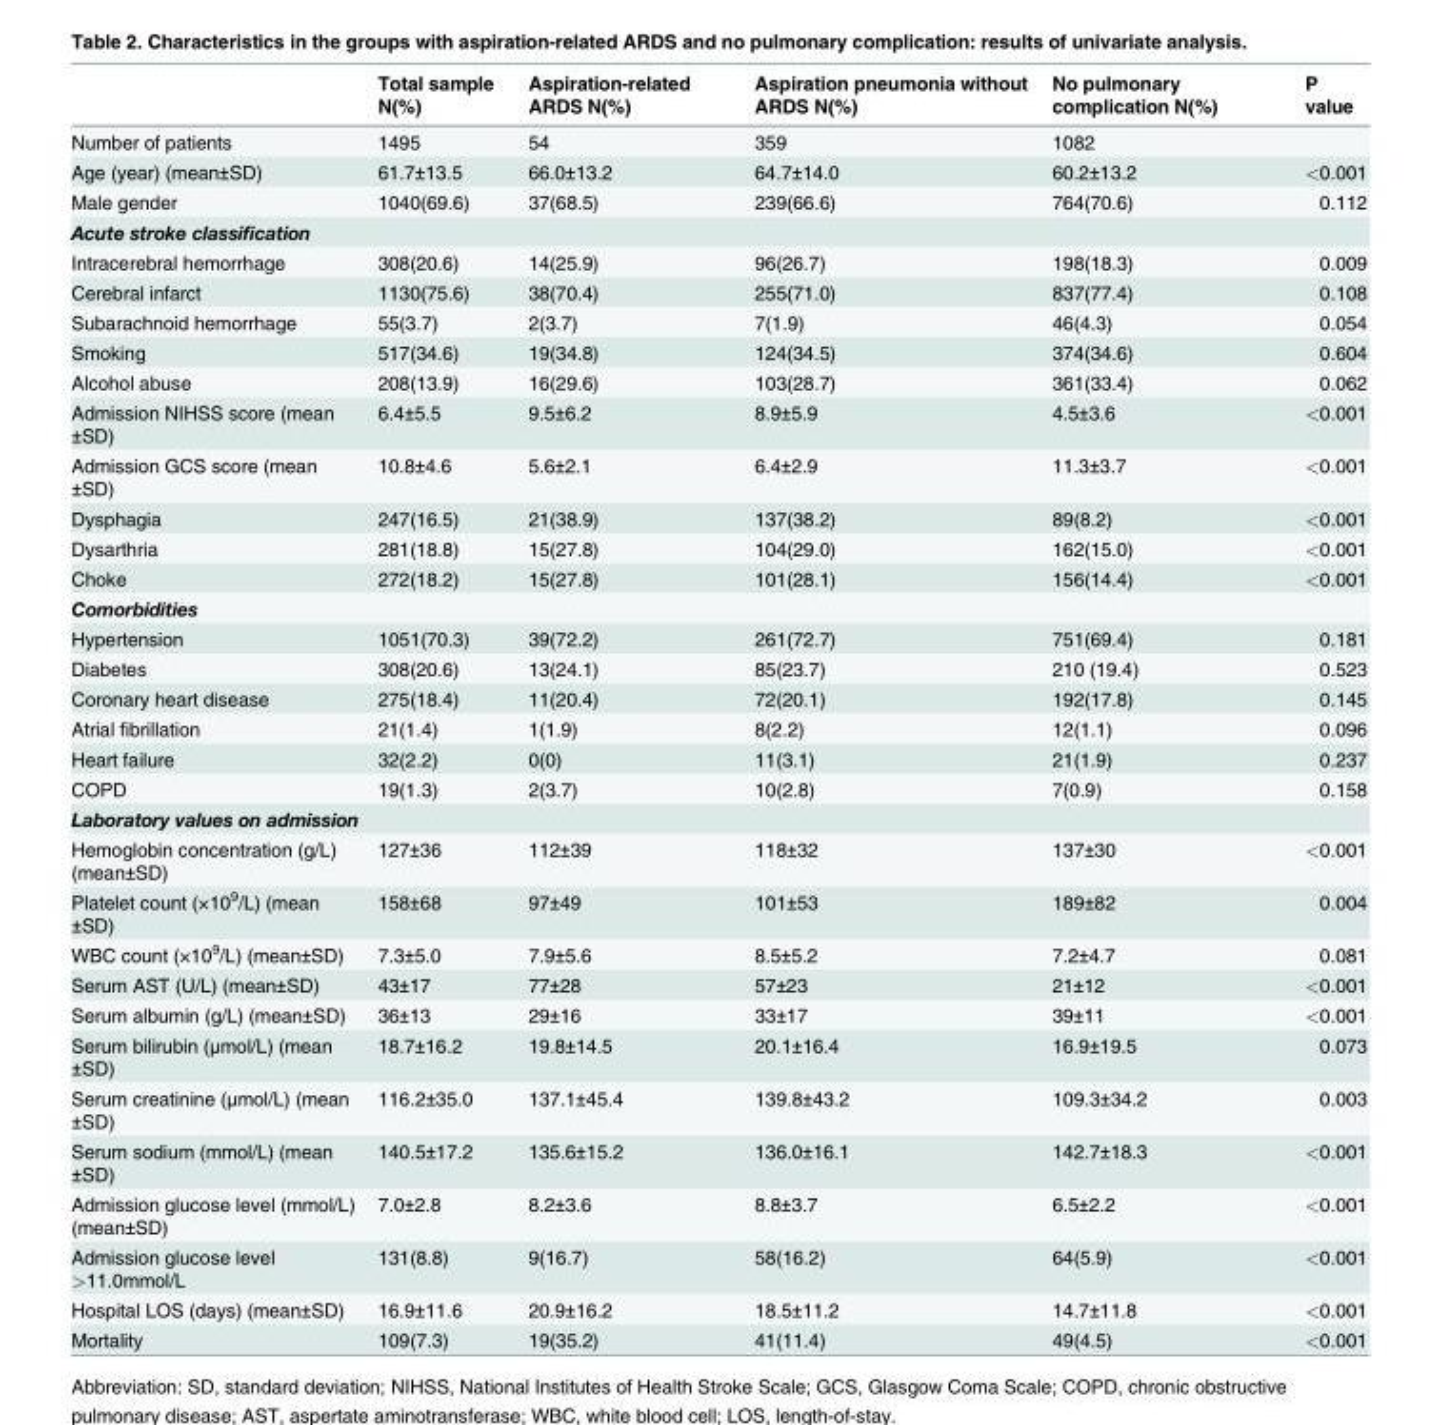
<table><thead><tr><td></td><td>Total sample N(%)</td><td>Aspiration-related ARDS N(%)</td><td>Aspiration pneumonia without ARDS N(%)</td><td>No pulmonary complication N(%)</td><td>P value</td></tr></thead><tbody><tr><td>Number of patients</td><td>1495</td><td>54</td><td>359</td><td>1082</td><td></td></tr><tr><td>Age (year) (mean±SD)</td><td>61.7±13.5</td><td>66.0±13.2</td><td>64.7±14.0</td><td>60.2±13.2</td><td>&lt;0.001</td></tr><tr><td>Male gender</td><td>1040(69.6)</td><td>37(68.5)</td><td>239(66.6)</td><td>764(70.6)</td><td>0.112</td></tr><tr><td colspan="6">Acute stroke classification</td></tr><tr><td>Intracerebral hemorrhage</td><td>308(20.6)</td><td>14(25.9)</td><td>96(26.7)</td><td>198(18.3)</td><td>0.009</td></tr><tr><td>Cerebral infarct</td><td>1130(75.6)</td><td>38(70.4)</td><td>255(71.0)</td><td>837(77.4)</td><td>0.108</td></tr><tr><td>Subarachnoid hemorrhage</td><td>55(3.7)</td><td>2(3.7)</td><td>7(1.9)</td><td>46(4.3)</td><td>0.054</td></tr><tr><td>Smoking</td><td>517(34.6)</td><td>19(34.8)</td><td>124(34.5)</td><td>374(34.6)</td><td>0.604</td></tr><tr><td>Alcohol abuse</td><td>208(13.9)</td><td>16(29.6)</td><td>103(28.7)</td><td>361(33.4)</td><td>0.062</td></tr><tr><td>Admission NIHSS score (mean ±SD)</td><td>6.4±5.5</td><td>9.5±6.2</td><td>8.9±5.9</td><td>4.5±3.6</td><td>&lt;0.001</td></tr><tr><td>Admission GCS score (mean ±SD)</td><td>10.8±4.6</td><td>5.6±2.1</td><td>6.4±2.9</td><td>11.3±3.7</td><td>&lt;0.001</td></tr><tr><td>Dysphagia</td><td>247(16.5)</td><td>21(38.9)</td><td>137(38.2)</td><td>89(8.2)</td><td>&lt;0.001</td></tr><tr><td>Dysarthria</td><td>281(18.8)</td><td>15(27.8)</td><td>104(29.0)</td><td>162(15.0)</td><td>&lt;0.001</td></tr><tr><td>Choke</td><td>272(18.2)</td><td>15(27.8)</td><td>101(28.1)</td><td>156(14.4)</td><td>&lt;0.001</td></tr><tr><td colspan="6">Comorbidities</td></tr><tr><td>Hypertension</td><td>1051(70.3)</td><td>39(72.2)</td><td>261(72.7)</td><td>751(69.4)</td><td>0.181</td></tr><tr><td>Diabetes</td><td>308(20.6)</td><td>13(24.1)</td><td>85(23.7)</td><td>210 (19.4)</td><td>0.523</td></tr><tr><td>Coronary heart disease</td><td>275(18.4)</td><td>11(20.4)</td><td>72(20.1)</td><td>192(17.8)</td><td>0.145</td></tr><tr><td>Atrial fibrillation</td><td>21(1.4)</td><td>1(1.9)</td><td>8(2.2)</td><td>12(1.1)</td><td>0.096</td></tr><tr><td>Heart failure</td><td>32(2.2)</td><td>0(0)</td><td>11(3.1)</td><td>21(1.9)</td><td>0.237</td></tr><tr><td>COPD</td><td>19(1.3)</td><td>2(3.7)</td><td>10(2.8)</td><td>7(0.9)</td><td>0.158</td></tr><tr><td colspan="6">Laboratory values on admission</td></tr><tr><td>Hemoglobin concentration (g/L) (mean±SD)</td><td>127±36</td><td>112±39</td><td>118±32</td><td>137±30</td><td>&lt;0.001</td></tr><tr><td>Platelet count (×10<sup>9</sup>/L) (mean ±SD)</td><td>158±68</td><td>97±49</td><td>101±53</td><td>189±82</td><td>0.004</td></tr><tr><td>WBC count (×10<sup>9</sup>/L) (mean±SD)</td><td>7.3±5.0</td><td>7.9±5.6</td><td>8.5±5.2</td><td>7.2±4.7</td><td>0.081</td></tr><tr><td>Serum AST (U/L) (mean±SD)</td><td>43±17</td><td>77±28</td><td>57±23</td><td>21±12</td><td>&lt;0.001</td></tr><tr><td>Serum albumin (g/L) (mean±SD)</td><td>36±13</td><td>29±16</td><td>33±17</td><td>39±11</td><td>&lt;0.001</td></tr><tr><td>Serum bilirubin (μmol/L) (mean ±SD)</td><td>18.7±16.2</td><td>19.8±14.5</td><td>20.1±16.4</td><td>16.9±19.5</td><td>0.073</td></tr><tr><td>Serum creatinine (μmol/L) (mean ±SD)</td><td>116.2±35.0</td><td>137.1±45.4</td><td>139.8±43.2</td><td>109.3±34.2</td><td>0.003</td></tr><tr><td>Serum sodium (mmol/L) (mean ±SD)</td><td>140.5±17.2</td><td>135.6±15.2</td><td>136.0±16.1</td><td>142.7±18.3</td><td>&lt;0.001</td></tr><tr><td>Admission glucose level (mmol/L) (mean±SD)</td><td>7.0±2.8</td><td>8.2±3.6</td><td>8.8±3.7</td><td>6.5±2.2</td><td>&lt;0.001</td></tr><tr><td>Admission glucose level &gt;11.0mmol/L</td><td>131(8.8)</td><td>9(16.7)</td><td>58(16.2)</td><td>64(5.9)</td><td>&lt;0.001</td></tr><tr><td>Hospital LOS (days) (mean±SD)</td><td>16.9±11.6</td><td>20.9±16.2</td><td>18.5±11.2</td><td>14.7±11.8</td><td>&lt;0.001</td></tr><tr><td>Mortality</td><td>109(7.3)</td><td>19(35.2)</td><td>41(11.4)</td><td>49(4.5)</td><td>&lt;0.001</td></tr></tbody></table>